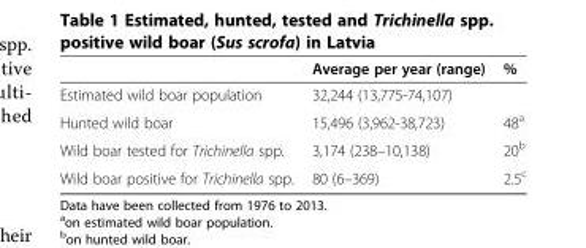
<table><thead><tr><td></td><td>Average per year (range)</td><td>%</td></tr></thead><tbody><tr><td>Estimated wild boar population</td><td>32,244 (13,775-74,107)</td><td></td></tr><tr><td>Hunted wild boar</td><td>15,496 (3,962-38,723)</td><td>48<sup>a</sup></td></tr><tr><td>Wild boar tested for Trichinella spp.</td><td>3,174 (238–10,138)</td><td>20<sup>b</sup></td></tr><tr><td>Wild boar positive for Trichinella spp.</td><td>80 (6–369)</td><td>2.5<sup>c</sup></td></tr></tbody></table>